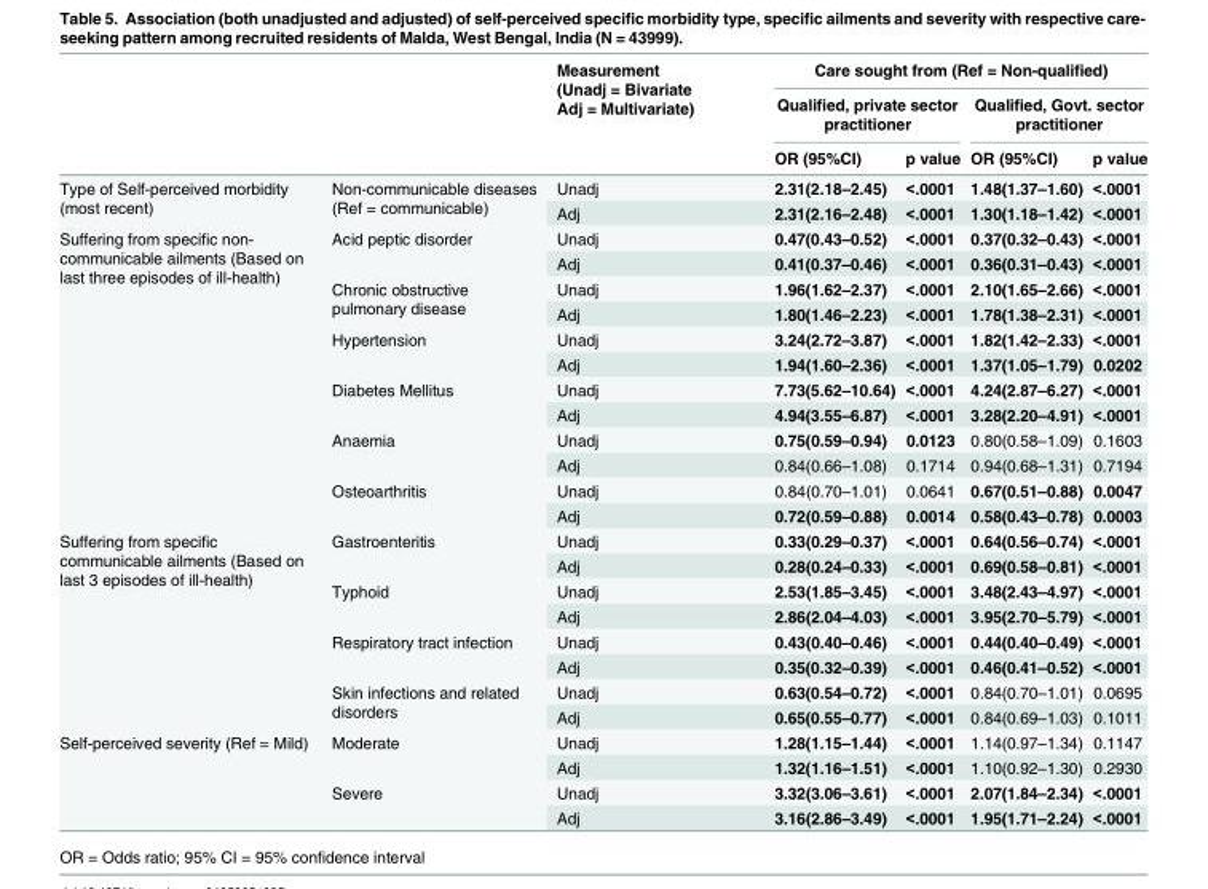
<table><thead><tr><td rowspan="3"></td><td rowspan="3"></td><td rowspan="3">Measurement (Unadj = Bivariate Adj = Multivariate)</td><td colspan="4">Care sought from (Ref = Non-qualified)</td></tr><tr><td colspan="2">Qualified, private sector practitioner</td><td colspan="2">Qualified, Govt. sector practitioner</td></tr><tr><td>OR (95%CI)</td><td>p value</td><td>OR (95%CI)</td><td>p value</td></tr></thead><tbody><tr><td rowspan="2">Type of Self-perceived morbidity (most recent)</td><td rowspan="2">Non-communicable diseases (Ref = communicable)</td><td>Unadj</td><td>2.31(2.18–2.45)</td><td>&lt;.0001</td><td>1.48(1.37–1.60)</td><td>&lt;.0001</td></tr><tr><td>Adj</td><td>2.31(2.16–2.48)</td><td>&lt;.0001</td><td>1.30(1.18–1.42)</td><td>&lt;.0001</td></tr><tr><td rowspan="12">Suffering from specific non- communicable ailments (Based on last three episodes of ill-health)</td><td rowspan="2">Acid peptic disorder</td><td>Unadj</td><td>0.47(0.43–0.52)</td><td>&lt;.0001</td><td>0.37(0.32–0.43)</td><td>&lt;.0001</td></tr><tr><td>Adj</td><td>0.41(0.37–0.46)</td><td>&lt;.0001</td><td>0.36(0.31–0.43)</td><td>&lt;.0001</td></tr><tr><td rowspan="2">Chronic obstructive pulmonary disease</td><td>Unadj</td><td>1.96(1.62–2.37)</td><td>&lt;.0001</td><td>2.10(1.65–2.66)</td><td>&lt;.0001</td></tr><tr><td>Adj</td><td>1.80(1.46–2.23)</td><td>&lt;.0001</td><td>1.78(1.38–2.31)</td><td>&lt;.0001</td></tr><tr><td rowspan="2">Hypertension</td><td>Unadj</td><td>3.24(2.72–3.87)</td><td>&lt;.0001</td><td>1.82(1.42–2.33)</td><td>&lt;.0001</td></tr><tr><td>Adj</td><td>1.94(1.60–2.36)</td><td>&lt;.0001</td><td>1.37(1.05–1.79)</td><td>0.0202</td></tr><tr><td rowspan="2">Diabetes Mellitus</td><td>Unadj</td><td>7.73(5.62–10.64)</td><td>&lt;.0001</td><td>4.24(2.87–6.27)</td><td>&lt;.0001</td></tr><tr><td>Adj</td><td>4.94(3.55–6.87)</td><td>&lt;.0001</td><td>3.28(2.20–4.91)</td><td>&lt;.0001</td></tr><tr><td rowspan="2">Anaemia</td><td>Unadj</td><td>0.75(0.59–0.94)</td><td>0.0123</td><td>0.80(0.58–1.09)</td><td>0.1603</td></tr><tr><td>Adj</td><td>0.84(0.66–1.08)</td><td>0.1714</td><td>0.94(0.68–1.31)</td><td>0.7194</td></tr><tr><td rowspan="2">Osteoarthritis</td><td>Unadj</td><td>0.84(0.70–1.01)</td><td>0.0641</td><td>0.67(0.51–0.88)</td><td>0.0047</td></tr><tr><td>Adj</td><td>0.72(0.59–0.88)</td><td>0.0014</td><td>0.58(0.43–0.78)</td><td>0.0003</td></tr><tr><td rowspan="8">Suffering from specific communicable ailments (Based on last 3 episodes of ill-health)</td><td rowspan="2">Gastroenteritis</td><td>Unadj</td><td>0.33(0.29–0.37)</td><td>&lt;.0001</td><td>0.64(0.56–0.74)</td><td>&lt;.0001</td></tr><tr><td>Adj</td><td>0.28(0.24–0.33)</td><td>&lt;.0001</td><td>0.69(0.58–0.81)</td><td>&lt;.0001</td></tr><tr><td rowspan="2">Typhoid</td><td>Unadj</td><td>2.53(1.85–3.45)</td><td>&lt;.0001</td><td>3.48(2.43–4.97)</td><td>&lt;.0001</td></tr><tr><td>Adj</td><td>2.86(2.04–4.03)</td><td>&lt;.0001</td><td>3.95(2.70–5.79)</td><td>&lt;.0001</td></tr><tr><td rowspan="2">Respiratory tract infection</td><td>Unadj</td><td>0.43(0.40–0.46)</td><td>&lt;.0001</td><td>0.44(0.40–0.49)</td><td>&lt;.0001</td></tr><tr><td>Adj</td><td>0.35(0.32–0.39)</td><td>&lt;.0001</td><td>0.46(0.41–0.52)</td><td>&lt;.0001</td></tr><tr><td rowspan="2">Skin infections and related disorders</td><td>Unadj</td><td>0.63(0.54–0.72)</td><td>&lt;.0001</td><td>0.84(0.70–1.01)</td><td>0.0695</td></tr><tr><td>Adj</td><td>0.65(0.55–0.77)</td><td>&lt;.0001</td><td>0.84(0.69–1.03)</td><td>0.1011</td></tr><tr><td rowspan="4">Self-perceived severity (Ref = Mild)</td><td rowspan="2">Moderate</td><td>Unadj</td><td>1.28(1.15–1.44)</td><td>&lt;.0001</td><td>1.14(0.97–1.34)</td><td>0.1147</td></tr><tr><td>Adj</td><td>1.32(1.16–1.51)</td><td>&lt;.0001</td><td>1.10(0.92–1.30)</td><td>0.2930</td></tr><tr><td rowspan="2">Severe</td><td>Unadj</td><td>3.32(3.06–3.61)</td><td>&lt;.0001</td><td>2.07(1.84–2.34)</td><td>&lt;.0001</td></tr><tr><td>Adj</td><td>3.16(2.86–3.49)</td><td>&lt;.0001</td><td>1.95(1.71–2.24)</td><td>&lt;.0001</td></tr></tbody></table>